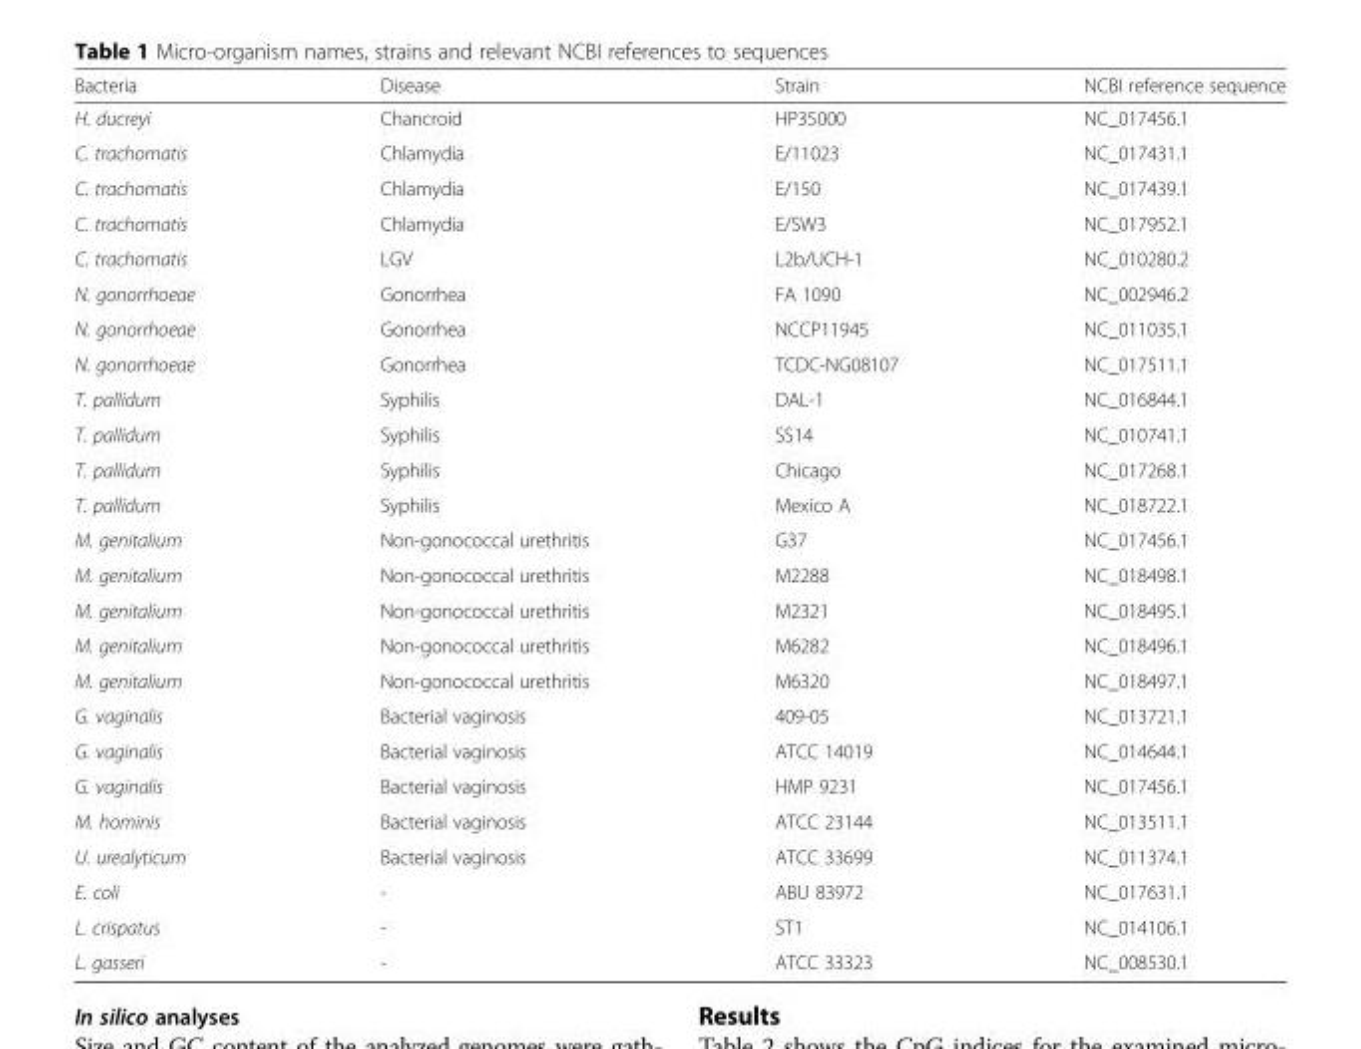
<table><thead><tr><td>Bacteria</td><td>Disease</td><td>Strain</td><td>NCBI reference sequence</td></tr></thead><tbody><tr><td>H. ducreyi</td><td>Chancroid</td><td>HP35000</td><td>NC_017456.1</td></tr><tr><td>C. trachomatis</td><td>Chlamydia</td><td>E/11023</td><td>NC_017431.1</td></tr><tr><td>C. trachomatis</td><td>Chlamydia</td><td>E/150</td><td>NC_017439.1</td></tr><tr><td>C. trachomatis</td><td>Chlamydia</td><td>E/SW3</td><td>NC_017952.1</td></tr><tr><td>C. trachomatis</td><td>LGV</td><td>L2b/UCH-1</td><td>NC_010280.2</td></tr><tr><td>N. gonorrhoeae</td><td>Gonorrhea</td><td>FA 1090</td><td>NC_002946.2</td></tr><tr><td>N. gonorrhoeae</td><td>Gonorrhea</td><td>NCCP11945</td><td>NC_011035.1</td></tr><tr><td>N. gonorrhoeae</td><td>Gonorrhea</td><td>TCDC-NG08107</td><td>NC_017511.1</td></tr><tr><td>T. pallidum</td><td>Syphilis</td><td>DAL-1</td><td>NC_016844.1</td></tr><tr><td>T. pallidum</td><td>Syphilis</td><td>SS14</td><td>NC_010741.1</td></tr><tr><td>T. pallidum</td><td>Syphilis</td><td>Chicago</td><td>NC_017268.1</td></tr><tr><td>T. pallidum</td><td>Syphilis</td><td>Mexico A</td><td>NC_018722.1</td></tr><tr><td>M. genitalium</td><td>Non-gonococcal urethritis</td><td>G37</td><td>NC_017456.1</td></tr><tr><td>M. genitalium</td><td>Non-gonococcal urethritis</td><td>M2288</td><td>NC_018498.1</td></tr><tr><td>M. genitalium</td><td>Non-gonococcal urethritis</td><td>M2321</td><td>NC_018495.1</td></tr><tr><td>M. genitalium</td><td>Non-gonococcal urethritis</td><td>M6282</td><td>NC_018496.1</td></tr><tr><td>M. genitalium</td><td>Non-gonococcal urethritis</td><td>M6320</td><td>NC_018497.1</td></tr><tr><td>G. vaginalis</td><td>Bacterial vaginosis</td><td>409-05</td><td>NC_013721.1</td></tr><tr><td>G. vaginalis</td><td>Bacterial vaginosis</td><td>ATCC 14019</td><td>NC_014644.1</td></tr><tr><td>G. vaginalis</td><td>Bacterial vaginosis</td><td>HMP 9231</td><td>NC_017456.1</td></tr><tr><td>M. hominis</td><td>Bacterial vaginosis</td><td>ATCC 23144</td><td>NC_013511.1</td></tr><tr><td>U. urealyticum</td><td>Bacterial vaginosis</td><td>ATCC 33699</td><td>NC_011374.1</td></tr><tr><td>E. coli</td><td>-</td><td>ABU 83972</td><td>NC_017631.1</td></tr><tr><td>L. crispatus</td><td>-</td><td>ST1</td><td>NC_014106.1</td></tr><tr><td>L. gasseri</td><td>-</td><td>ATCC 33323</td><td>NC_008530.1</td></tr></tbody></table>